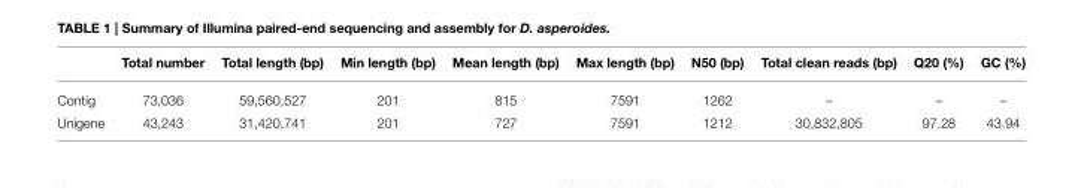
<table><thead><tr><td></td><td>Total number</td><td>Total length (bp)</td><td>Min length (bp)</td><td>Mean length (bp)</td><td>Max length (bp)</td><td>N50 (bp)</td><td>Total clean reads (bp)</td><td>Q20 (%)</td><td>GC (%)</td></tr></thead><tbody><tr><td>Contig</td><td>73,036</td><td>59,560,527</td><td>201</td><td>815</td><td>7591</td><td>1262</td><td>–</td><td>–</td><td>–</td></tr><tr><td>Unigene</td><td>43,243</td><td>31,420,741</td><td>201</td><td>727</td><td>7591</td><td>1212</td><td>30,832,805</td><td>97.28</td><td>43.94</td></tr></tbody></table>